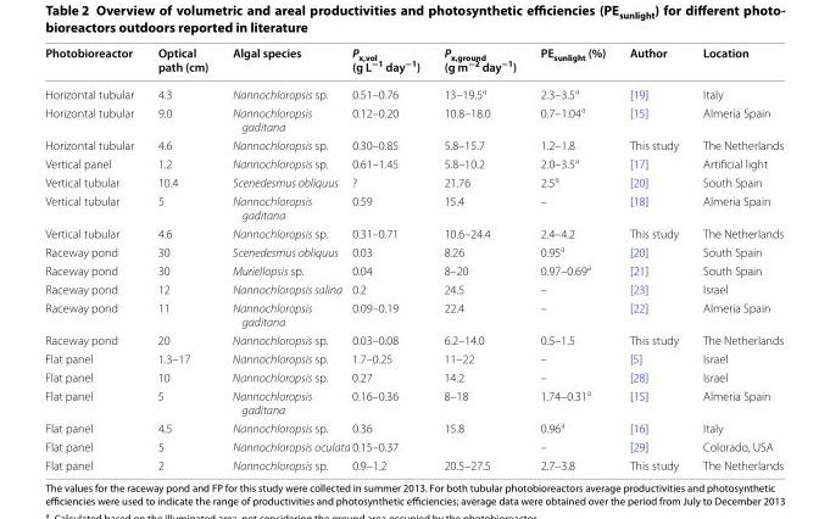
<table><thead><tr><td>Photobioreactor</td><td>Optical path (cm)</td><td>Algal species</td><td>P<sub>x,vol</sub> (g L<sup>−1</sup> day<sup>−1</sup>)</td><td>P<sub>x,ground</sub> (g m<sup>−2</sup> day<sup>−1</sup>)</td><td>PE<sub>sunlight</sub> (%)</td><td>Author</td><td>Location</td></tr></thead><tbody><tr><td>Horizontal tubular</td><td>4.3</td><td>Nannochloropsis sp.</td><td>0.51–0.76</td><td>13–19.5<sup>a</sup></td><td>2.3–3.5<sup>a</sup></td><td>[19]</td><td>Italy</td></tr><tr><td>Horizontal tubular</td><td>9.0</td><td>Nannochloropsis gaditana</td><td>0.12–0.20</td><td>10.8–18.0</td><td>0.7–1.04<sup>a</sup></td><td>[15]</td><td>Almeria Spain</td></tr><tr><td>Horizontal tubular</td><td>4.6</td><td>Nannochloropsis sp.</td><td>0.30–0.85</td><td>5.8–15.7</td><td>1.2–1.8</td><td>This study</td><td>The Netherlands</td></tr><tr><td>Vertical panel</td><td>1.2</td><td>Nannochloropsis sp.</td><td>0.61–1.45</td><td>5.8–10.2</td><td>2.0–3.5<sup>a</sup></td><td>[17]</td><td>Artificial light</td></tr><tr><td>Vertical tubular</td><td>10.4</td><td>Scenedesmus obliquus</td><td>?</td><td>21.76</td><td>2.5<sup>a</sup></td><td>[20]</td><td>South Spain</td></tr><tr><td>Vertical tubular</td><td>5</td><td>Nannochloropsis gaditana</td><td>0.59</td><td>15.4</td><td>–</td><td>[18]</td><td>Almeria Spain</td></tr><tr><td>Vertical tubular</td><td>4.6</td><td>Nannochloropsis sp.</td><td>0.31–0.71</td><td>10.6–24.4</td><td>2.4–4.2</td><td>This study</td><td>The Netherlands</td></tr><tr><td>Raceway pond</td><td>30</td><td>Scenedesmus obliquus</td><td>0.03</td><td>8.26</td><td>0.95<sup>a</sup></td><td>[20]</td><td>South Spain</td></tr><tr><td>Raceway pond</td><td>30</td><td>Muriellopsis sp.</td><td>0.04</td><td>8–20</td><td>0.97–0.69<sup>a</sup></td><td>[21]</td><td>South Spain</td></tr><tr><td>Raceway pond</td><td>12</td><td>Nannochloropsis salina</td><td>0.2</td><td>24.5</td><td>–</td><td>[23]</td><td>Israel</td></tr><tr><td>Raceway pond</td><td>11</td><td>Nannochloropsis gaditana</td><td>0.09–0.19</td><td>22.4</td><td>–</td><td>[22]</td><td>Almeria Spain</td></tr><tr><td>Raceway pond</td><td>20</td><td>Nannochloropsis sp.</td><td>0.03–0.08</td><td>6.2–14.0</td><td>0.5–1.5</td><td>This study</td><td>The Netherlands</td></tr><tr><td>Flat panel</td><td>1.3–17</td><td>Nannochloropsis sp.</td><td>1.7–0.25</td><td>11–22</td><td>–</td><td>[5]</td><td>Israel</td></tr><tr><td>Flat panel</td><td>10</td><td>Nannochloropsis sp.</td><td>0.27</td><td>14.2</td><td>–</td><td>[28]</td><td>Israel</td></tr><tr><td>Flat panel</td><td>5</td><td>Nannochloropsis gaditana</td><td>0.16–0.36</td><td>8–18</td><td>1.74–0.31<sup>a</sup></td><td>[15]</td><td>Almeria Spain</td></tr><tr><td>Flat panel</td><td>4.5</td><td>Nannochloropsis sp.</td><td>0.36</td><td>15.8</td><td>0.96<sup>a</sup></td><td>[16]</td><td>Italy</td></tr><tr><td>Flat panel</td><td>5</td><td>Nannochloropsis oculata</td><td>0.15–0.37</td><td></td><td>–</td><td>[29]</td><td>Colorado, USA</td></tr><tr><td>Flat panel</td><td>2</td><td>Nannochloropsis sp.</td><td>0.9–1.2</td><td>20.5–27.5</td><td>2.7–3.8</td><td>This study</td><td>The Netherlands</td></tr></tbody></table>